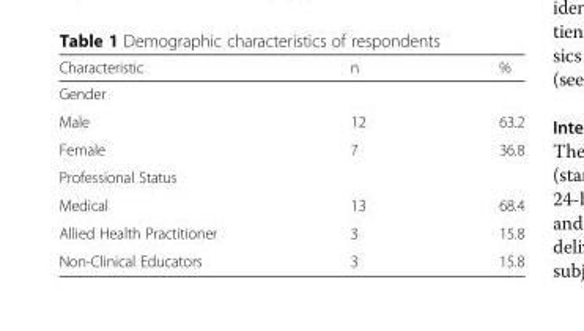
<table><thead><tr><td>Characteristic</td><td>n</td><td>%</td></tr></thead><tbody><tr><td colspan="3">Gender</td></tr><tr><td>Male</td><td>12</td><td>63.2</td></tr><tr><td>Female</td><td>7</td><td>36.8</td></tr><tr><td colspan="3">Professional Status</td></tr><tr><td>Medical</td><td>13</td><td>68.4</td></tr><tr><td>Allied Health Practitioner</td><td>3</td><td>15.8</td></tr><tr><td>Non-Clinical Educators</td><td>3</td><td>15.8</td></tr></tbody></table>